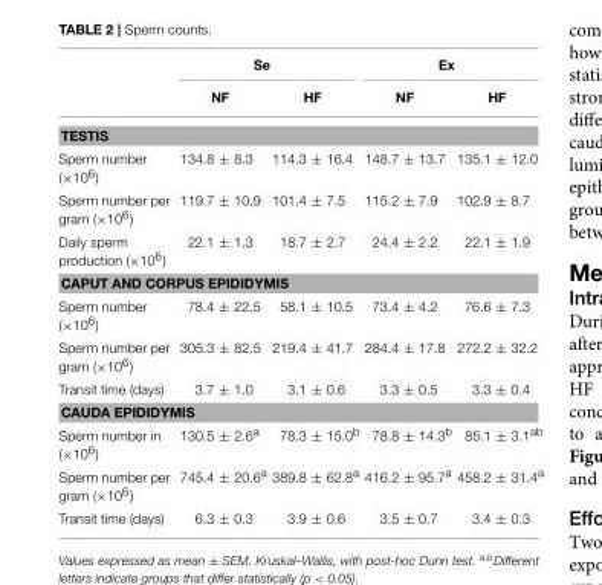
<table><thead><tr><td rowspan="2"></td><td colspan="2">Se</td><td colspan="2">Ex</td></tr><tr><td>NF</td><td>HF</td><td>NF</td><td>HF</td></tr></thead><tbody><tr><td colspan="5">TESTIS</td></tr><tr><td>Sperm number (×10<sup>6</sup>)</td><td>134.8 ± 8.3</td><td>114.3 ± 16.4</td><td>148.7 ± 13.7</td><td>135.1 ± 12.0</td></tr><tr><td>Sperm number per gram (×10<sup>6</sup>)</td><td>119.7 ± 10.9</td><td>101.4 ± 7.5</td><td>115.2 ± 7.9</td><td>102.9 ± 8.7</td></tr><tr><td>Daily sperm production (×10<sup>6</sup>)</td><td>22.1 ± 1.3</td><td>18.7 ± 2.7</td><td>24.4 ± 2.2</td><td>22.1 ± 1.9</td></tr><tr><td colspan="5">CAPUT AND CORPUS EPIDIDYMIS</td></tr><tr><td>Sperm number (×10<sup>6</sup>)</td><td>78.4 ± 22.5</td><td>58.1 ± 10.5</td><td>73.4 ± 4.2</td><td>76.6 ± 7.3</td></tr><tr><td>Sperm number per gram (×10<sup>6</sup>)</td><td>305.3 ± 82.5</td><td>219.4 ± 41.7</td><td>284.4 ± 17.8</td><td>272.2 ± 32.2</td></tr><tr><td>Transit time (days)</td><td>3.7 ± 1.0</td><td>3.1 ± 0.6</td><td>3.3 ± 0.5</td><td>3.3 ± 0.4</td></tr><tr><td colspan="5">CAUDA EPIDIDYMIS</td></tr><tr><td>Sperm number in (×10<sup>6</sup>)</td><td>130.5 ± 2.6<sup>a</sup></td><td>78.3 ± 15.0<sup>b</sup></td><td>78.8 ± 14.3<sup>b</sup></td><td>85.1 ± 3.1<sup>ab</sup></td></tr><tr><td>Sperm number per gram (×10<sup>6</sup>)</td><td>745.4 ± 20.6<sup>a</sup></td><td>389.8 ± 62.8<sup>a</sup></td><td>416.2 ± 95.7<sup>a</sup></td><td>458.2 ± 31.4<sup>a</sup></td></tr><tr><td>Transit time (days)</td><td>6.3 ± 0.3</td><td>3.9 ± 0.6</td><td>3.5 ± 0.7</td><td>3.4 ± 0.3</td></tr></tbody></table>